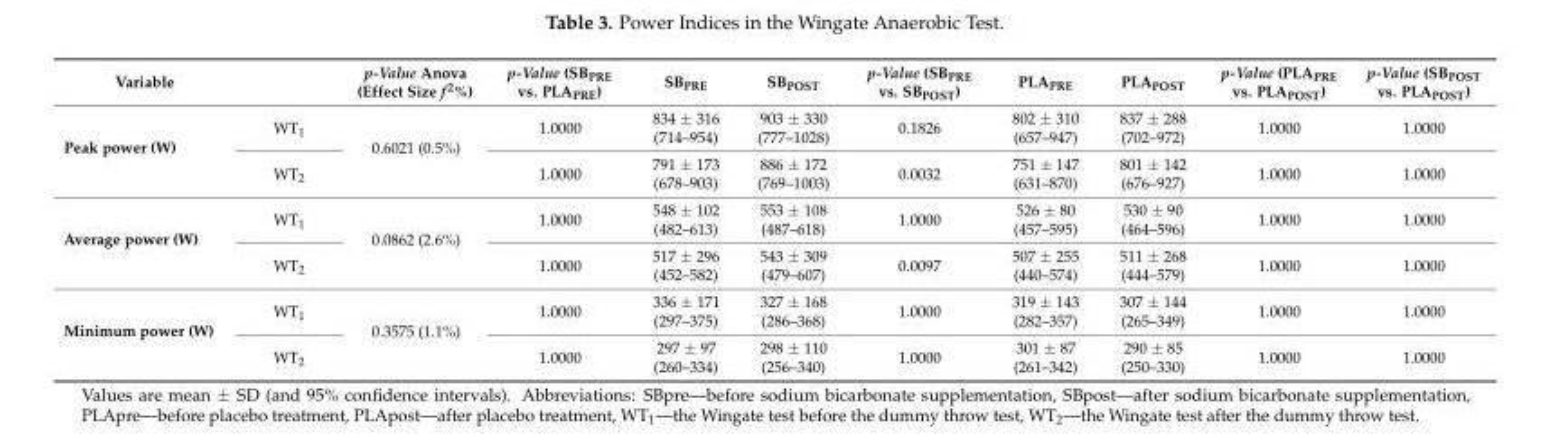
<table><thead><tr><td>Variable</td><td></td><td>p-Value Anova (Effect Size f<sup>2</sup>%)</td><td>p-Value (SB<sub>PRE</sub> vs. PLA<sub>PRE</sub>)</td><td>SB<sub>PRE</sub></td><td>SB<sub>POST</sub></td><td>p-Value (SB<sub>PRE</sub> vs. SB<sub>POST</sub>)</td><td>PLA<sub>PRE</sub></td><td>PLA<sub>POST</sub></td><td>p-Value (PLA<sub>PRE</sub> vs. PLA<sub>POST</sub>)</td><td>p-Value (SB<sub>POST</sub> vs. PLA<sub>POST</sub>)</td></tr></thead><tbody><tr><td rowspan="2">Peak power (W)</td><td>WT<sub>1</sub></td><td rowspan="2">0.6021 (0.5%)</td><td>1.0000</td><td>834 ± 316 (714–954)</td><td>903 ± 330 (777–1028)</td><td>0.1826</td><td>802 ± 310 (657–947)</td><td>837 ± 288 (702–972)</td><td>1.0000</td><td>1.0000</td></tr><tr><td>WT<sub>2</sub></td><td>1.0000</td><td>791 ± 173 (678–903)</td><td>886 ± 172 (769–1003)</td><td>0.0032</td><td>751 ± 147 (631–870)</td><td>801 ± 142 (676–927)</td><td>1.0000</td><td>1.0000</td></tr><tr><td rowspan="2">Average power (W)</td><td>WT<sub>1</sub></td><td rowspan="2">0.0862 (2.6%)</td><td>1.0000</td><td>548 ± 102 (482–613)</td><td>553 ± 108 (487–618)</td><td>1.0000</td><td>526 ± 80 (457–595)</td><td>530 ± 90 (464–596)</td><td>1.0000</td><td>1.0000</td></tr><tr><td>WT<sub>2</sub></td><td>1.0000</td><td>517 ± 296 (452–582)</td><td>543 ± 309 (479–607)</td><td>0.0097</td><td>507 ± 255 (440–574)</td><td>511 ± 268 (444–579)</td><td>1.0000</td><td>1.0000</td></tr><tr><td rowspan="2">Minimum power (W)</td><td>WT<sub>1</sub></td><td rowspan="2">0.3575 (1.1%)</td><td>1.0000</td><td>336 ± 171 (297–375)</td><td>327 ± 168 (286–368)</td><td>1.0000</td><td>319 ± 143 (282–357)</td><td>307 ± 144 (265–349)</td><td>1.0000</td><td>1.0000</td></tr><tr><td>WT<sub>2</sub></td><td>1.0000</td><td>297 ± 97 (260–334)</td><td>298 ± 110 (256–340)</td><td>1.0000</td><td>301 ± 87 (261–342)</td><td>290 ± 85 (250–330)</td><td>1.0000</td><td>1.0000</td></tr></tbody></table>